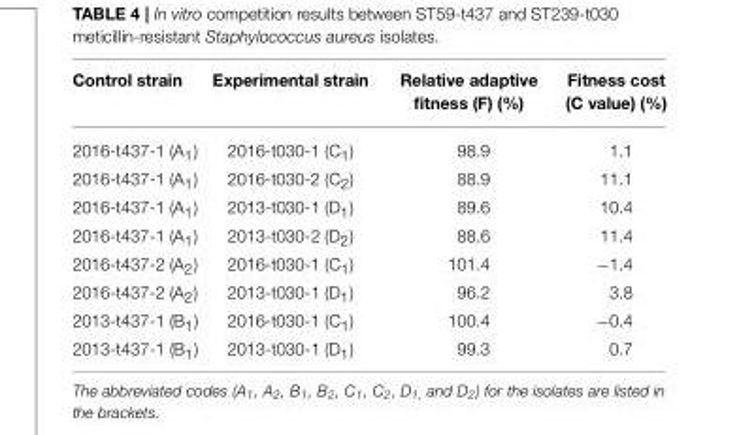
<table><thead><tr><td>Control strain</td><td>Experimental strain</td><td>Relative adaptive fitness (F) (%)</td><td>Fitness cost (C value) (%)</td></tr></thead><tbody><tr><td>2016-t437-1 (A<sub>1</sub>)</td><td>2016-t030-1 (C<sub>1</sub>)</td><td>98.9</td><td>1.1</td></tr><tr><td>2016-t437-1 (A<sub>1</sub>)</td><td>2016-t030-2 (C<sub>2</sub>)</td><td>88.9</td><td>11.1</td></tr><tr><td>2016-t437-1 (A<sub>1</sub>)</td><td>2013-t030-1 (D<sub>1</sub>)</td><td>89.6</td><td>10.4</td></tr><tr><td>2016-t437-1 (A<sub>1</sub>)</td><td>2013-t030-2 (D<sub>2</sub>)</td><td>88.6</td><td>11.4</td></tr><tr><td>2016-t437-2 (A<sub>2</sub>)</td><td>2016-t030-1 (C<sub>1</sub>)</td><td>101.4</td><td>−1.4</td></tr><tr><td>2016-t437-2 (A<sub>2</sub>)</td><td>2013-t030-1 (D<sub>1</sub>)</td><td>96.2</td><td>3.8</td></tr><tr><td>2013-t437-1 (B<sub>1</sub>)</td><td>2016-t030-1 (C<sub>1</sub>)</td><td>100.4</td><td>−0.4</td></tr><tr><td>2013-t437-1 (B<sub>1</sub>)</td><td>2013-t030-1 (D<sub>1</sub>)</td><td>99.3</td><td>0.7</td></tr></tbody></table>